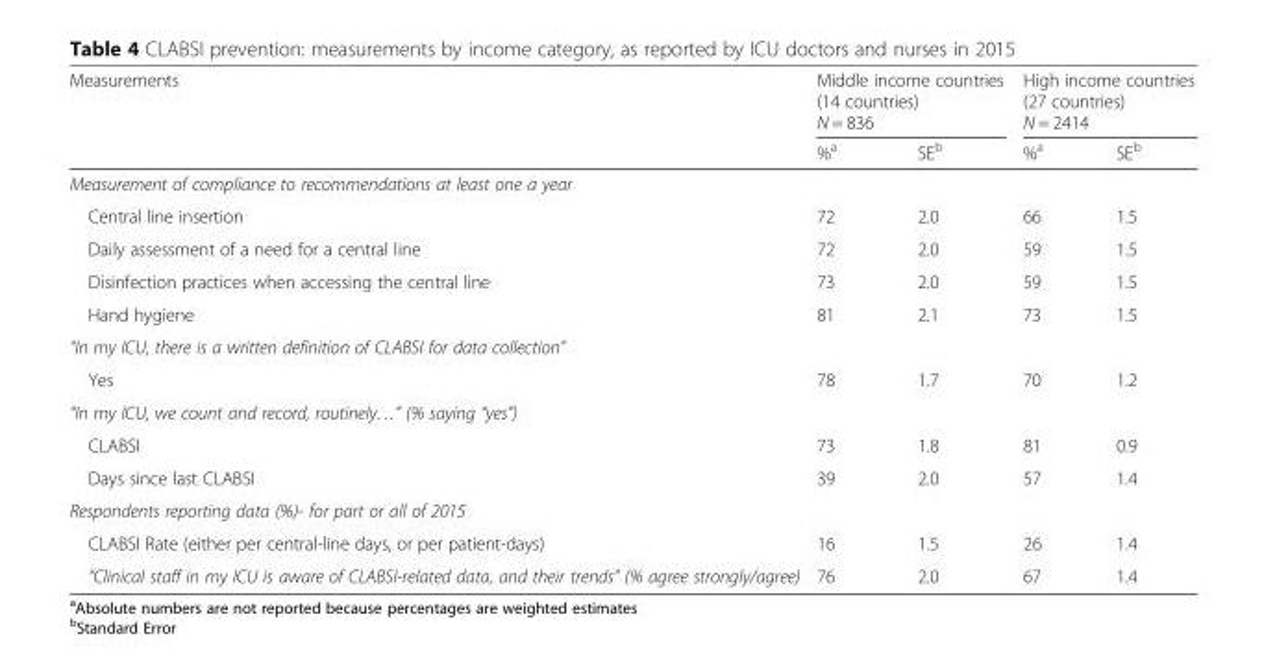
<table><thead><tr><td rowspan="3">Measurements</td><td rowspan="2" colspan="2">Middle income countries (14 countries) N = 836</td><td rowspan="2" colspan="2">High income countries (27 countries) N = 2414</td></tr><tr></tr><tr><td>%<sup>a</sup></td><td>SE<sup>b</sup></td><td>%<sup>a</sup></td><td>SE<sup>b</sup></td></tr></thead><tbody><tr><td colspan="5">Measurement of compliance to recommendations at least one a year</td></tr><tr><td>Central line insertion</td><td>72</td><td>2.0</td><td>66</td><td>1.5</td></tr><tr><td>Daily assessment of a need for a central line</td><td>72</td><td>2.0</td><td>59</td><td>1.5</td></tr><tr><td>Disinfection practices when accessing the central line</td><td>73</td><td>2.0</td><td>59</td><td>1.5</td></tr><tr><td>Hand hygiene</td><td>81</td><td>2.1</td><td>73</td><td>1.5</td></tr><tr><td colspan="5">“In my ICU, there is a written definition of CLABSI for data collection”</td></tr><tr><td>Yes</td><td>78</td><td>1.7</td><td>70</td><td>1.2</td></tr><tr><td colspan="5">“In my ICU, we count and record, routinely…” (% saying “yes”)</td></tr><tr><td>CLABSI</td><td>73</td><td>1.8</td><td>81</td><td>0.9</td></tr><tr><td>Days since last CLABSI</td><td>39</td><td>2.0</td><td>57</td><td>1.4</td></tr><tr><td colspan="5">Respondents reporting data (%)- for part or all of 2015</td></tr><tr><td>CLABSI Rate (either per central-line days, or per patient-days)</td><td>16</td><td>1.5</td><td>26</td><td>1.4</td></tr><tr><td>“Clinical staff in my ICU is aware of CLABSI-related data, and their trends” (% agree strongly/agree)</td><td>76</td><td>2.0</td><td>67</td><td>1.4</td></tr></tbody></table>